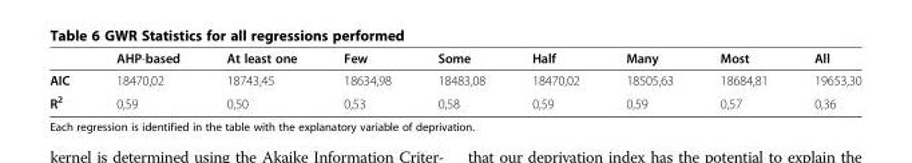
<table><thead><tr><td></td><td>AHP-based</td><td>At least one</td><td>Few</td><td>Some</td><td>Half</td><td>Many</td><td>Most</td><td>All</td></tr></thead><tbody><tr><td>AIC</td><td>18470,02</td><td>18743,45</td><td>18634,98</td><td>18483,08</td><td>18470,02</td><td>18505,63</td><td>18684,81</td><td>19653,30</td></tr><tr><td>R<sup>2</sup></td><td>0,59</td><td>0,50</td><td>0,53</td><td>0,58</td><td>0,59</td><td>0,59</td><td>0,57</td><td>0,36</td></tr></tbody></table>